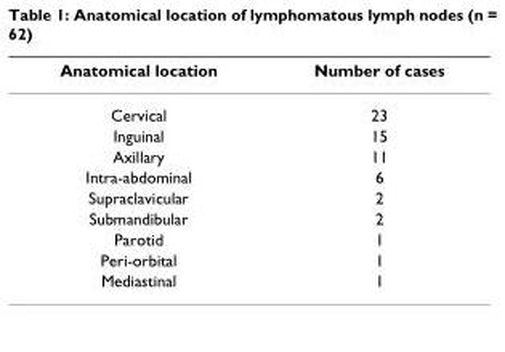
<table><thead><tr><td>Anatomical location</td><td>Number of cases</td></tr></thead><tbody><tr><td>Cervical</td><td>23</td></tr><tr><td>Inguinal</td><td>15</td></tr><tr><td>Axillary</td><td>11</td></tr><tr><td>Intra-abdominal</td><td>6</td></tr><tr><td>Supraclavicular</td><td>2</td></tr><tr><td>Submandibular</td><td>2</td></tr><tr><td>Parotid</td><td>1</td></tr><tr><td>Peri-orbital</td><td>1</td></tr><tr><td>Mediastinal</td><td>1</td></tr></tbody></table>